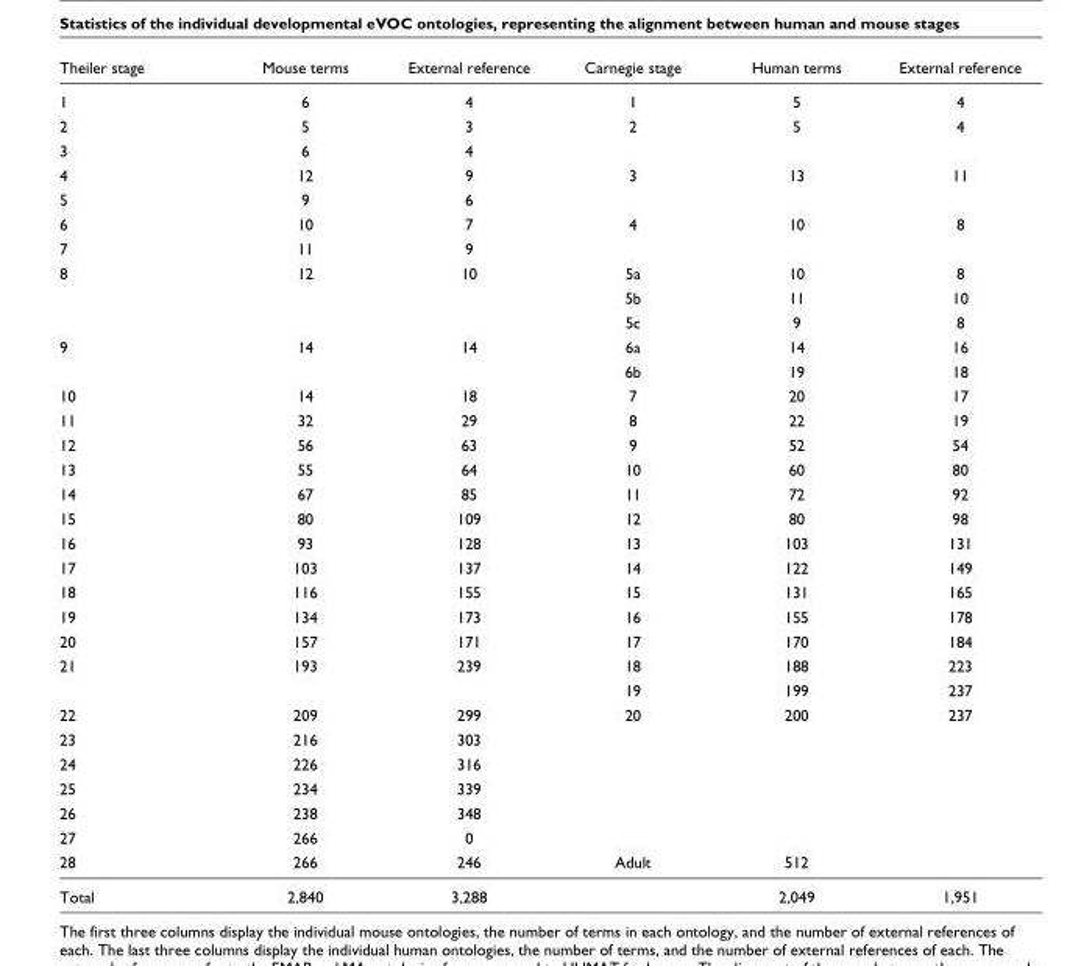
<table><thead><tr><td>Theiler stage</td><td>Mouse terms</td><td>External reference</td><td>Carnegie stage</td><td>Human terms</td><td>External reference</td></tr></thead><tbody><tr><td>1</td><td>6</td><td>4</td><td>1</td><td>5</td><td>4</td></tr><tr><td>2</td><td>5</td><td>3</td><td>2</td><td>5</td><td>4</td></tr><tr><td>3</td><td>6</td><td>4</td><td></td><td></td><td></td></tr><tr><td>4</td><td>12</td><td>9</td><td>3</td><td>13</td><td>11</td></tr><tr><td>5</td><td>9</td><td>6</td><td></td><td></td><td></td></tr><tr><td>6</td><td>10</td><td>7</td><td>4</td><td>10</td><td>8</td></tr><tr><td>7</td><td>11</td><td>9</td><td></td><td></td><td></td></tr><tr><td rowspan="3">8</td><td>12</td><td>10</td><td>5a</td><td>10</td><td>8</td></tr><tr><td></td><td></td><td>5b</td><td>11</td><td>10</td></tr><tr><td></td><td></td><td>5c</td><td>9</td><td>8</td></tr><tr><td rowspan="2">9</td><td>14</td><td>14</td><td>6a</td><td>14</td><td>16</td></tr><tr><td></td><td></td><td>6b</td><td>19</td><td>18</td></tr><tr><td>10</td><td>14</td><td>18</td><td>7</td><td>20</td><td>17</td></tr><tr><td>11</td><td>32</td><td>29</td><td>8</td><td>22</td><td>19</td></tr><tr><td>12</td><td>56</td><td>63</td><td>9</td><td>52</td><td>54</td></tr><tr><td>13</td><td>55</td><td>64</td><td>10</td><td>60</td><td>80</td></tr><tr><td>14</td><td>67</td><td>85</td><td>11</td><td>72</td><td>92</td></tr><tr><td>15</td><td>80</td><td>109</td><td>12</td><td>80</td><td>98</td></tr><tr><td>16</td><td>93</td><td>128</td><td>13</td><td>103</td><td>131</td></tr><tr><td>17</td><td>103</td><td>137</td><td>14</td><td>122</td><td>149</td></tr><tr><td>18</td><td>116</td><td>155</td><td>15</td><td>131</td><td>165</td></tr><tr><td>19</td><td>134</td><td>173</td><td>16</td><td>155</td><td>178</td></tr><tr><td>20</td><td>157</td><td>171</td><td>17</td><td>170</td><td>184</td></tr><tr><td rowspan="2">21</td><td>193</td><td>239</td><td>18</td><td>188</td><td>223</td></tr><tr><td></td><td></td><td>19</td><td>199</td><td>237</td></tr><tr><td>22</td><td>209</td><td>299</td><td>20</td><td>200</td><td>237</td></tr><tr><td>23</td><td>216</td><td>303</td><td></td><td></td><td></td></tr><tr><td>24</td><td>226</td><td>316</td><td></td><td></td><td></td></tr><tr><td>25</td><td>234</td><td>339</td><td></td><td></td><td></td></tr><tr><td>26</td><td>238</td><td>348</td><td></td><td></td><td></td></tr><tr><td>27</td><td>266</td><td>0</td><td></td><td></td><td></td></tr><tr><td>28</td><td>266</td><td>246</td><td>Adult</td><td>512</td><td></td></tr><tr><td>Total</td><td>2,840</td><td>3,288</td><td></td><td>2,049</td><td>1,951</td></tr></tbody></table>